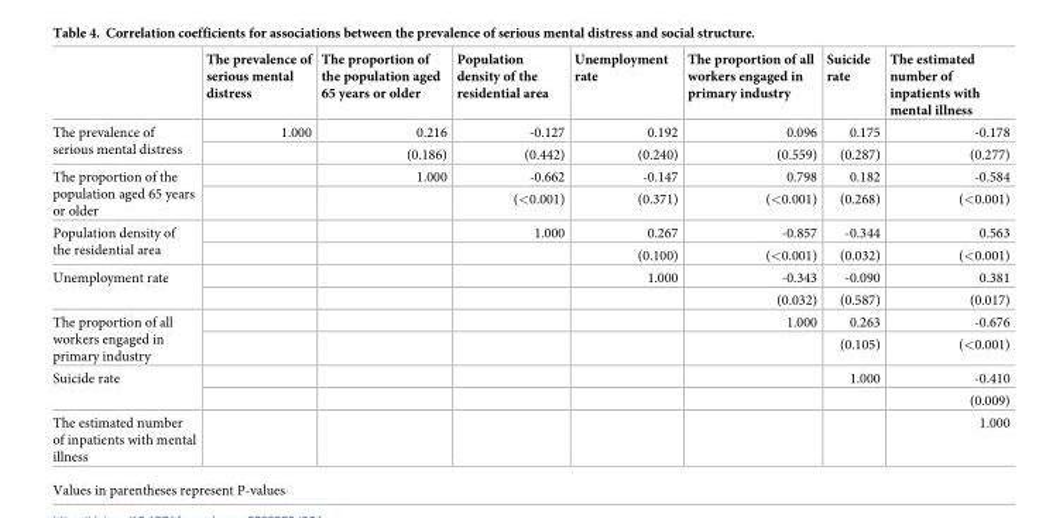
<table><thead><tr><td></td><td>The prevalence of serious mental distress</td><td>The proportion of the population aged 65 years or older</td><td>Population density of the residential area</td><td>Unemployment rate</td><td>The proportion of all workers engaged in primary industry</td><td>Suicide rate</td><td>The estimated number of inpatients with mental illness</td></tr></thead><tbody><tr><td rowspan="2">The prevalence of serious mental distress</td><td>1.000</td><td>0.216</td><td>-0.127</td><td>0.192</td><td>0.096</td><td>0.175</td><td>-0.178</td></tr><tr><td></td><td>(0.186)</td><td>(0.442)</td><td>(0.240)</td><td>(0.559)</td><td>(0.287)</td><td>(0.277)</td></tr><tr><td rowspan="2">The proportion of the population aged 65 years or older</td><td></td><td>1.000</td><td>-0.662</td><td>-0.147</td><td>0.798</td><td>0.182</td><td>-0.584</td></tr><tr><td></td><td></td><td>(&lt;0.001)</td><td>(0.371)</td><td>(&lt;0.001)</td><td>(0.268)</td><td>(&lt;0.001)</td></tr><tr><td rowspan="2">Population density of the residential area</td><td></td><td></td><td>1.000</td><td>0.267</td><td>-0.857</td><td>-0.344</td><td>0.563</td></tr><tr><td></td><td></td><td></td><td>(0.100)</td><td>(&lt;0.001)</td><td>(0.032)</td><td>(&lt;0.001)</td></tr><tr><td rowspan="2">Unemployment rate</td><td></td><td></td><td></td><td>1.000</td><td>-0.343</td><td>-0.090</td><td>0.381</td></tr><tr><td></td><td></td><td></td><td></td><td>(0.032)</td><td>(0.587)</td><td>(0.017)</td></tr><tr><td rowspan="2">The proportion of all workers engaged in primary industry</td><td></td><td></td><td></td><td></td><td>1.000</td><td>0.263</td><td>-0.676</td></tr><tr><td></td><td></td><td></td><td></td><td></td><td>(0.105)</td><td>(&lt;0.001)</td></tr><tr><td rowspan="2">Suicide rate</td><td></td><td></td><td></td><td></td><td></td><td>1.000</td><td>-0.410</td></tr><tr><td></td><td></td><td></td><td></td><td></td><td></td><td>(0.009)</td></tr><tr><td>The estimated number of inpatients with mental illness</td><td></td><td></td><td></td><td></td><td></td><td></td><td>1.000</td></tr></tbody></table>